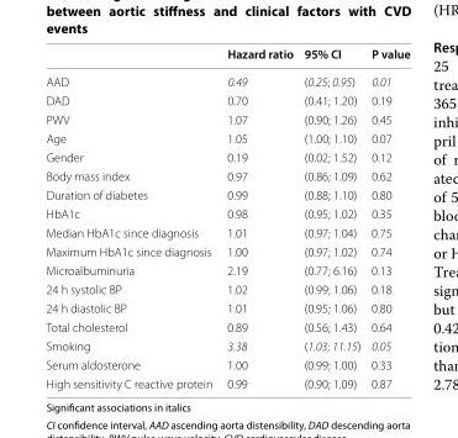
<table><thead><tr><td></td><td>Hazard ratio</td><td>95% CI</td><td>P value</td></tr></thead><tbody><tr><td>AAD</td><td>0.49</td><td>(0.25; 0.95)</td><td>0.01</td></tr><tr><td>DAD</td><td>0.70</td><td>(0.41; 1.20)</td><td>0.19</td></tr><tr><td>PWV</td><td>1.07</td><td>(0.90; 1.26)</td><td>0.45</td></tr><tr><td>Age</td><td>1.05</td><td>(1.00; 1.10)</td><td>0.07</td></tr><tr><td>Gender</td><td>0.19</td><td>(0.02; 1.52)</td><td>0.12</td></tr><tr><td>Body mass index</td><td>0.97</td><td>(0.86; 1.09)</td><td>0.62</td></tr><tr><td>Duration of diabetes</td><td>0.99</td><td>(0.88; 1.10)</td><td>0.80</td></tr><tr><td>HbA1c</td><td>0.98</td><td>(0.95; 1.02)</td><td>0.35</td></tr><tr><td>Median HbA1c since diagnosis</td><td>1.01</td><td>(0.97; 1.04)</td><td>0.75</td></tr><tr><td>Maximum HbA1c since diagnosis</td><td>1.00</td><td>(0.97; 1.02)</td><td>0.74</td></tr><tr><td>Microalbuminuria</td><td>2.19</td><td>(0.77; 6.16)</td><td>0.13</td></tr><tr><td>24 h systolic BP</td><td>1.02</td><td>(0.99; 1.06)</td><td>0.18</td></tr><tr><td>24 h diastolic BP</td><td>1.01</td><td>(0.95; 1.06)</td><td>0.80</td></tr><tr><td>Total cholesterol</td><td>0.89</td><td>(0.56; 1.43)</td><td>0.64</td></tr><tr><td>Smoking</td><td>3.38</td><td>(1.03; 11.15)</td><td>0.05</td></tr><tr><td>Serum aldosterone</td><td>1.00</td><td>(0.99; 1.00)</td><td>0.33</td></tr><tr><td>High sensitivity C reactive protein</td><td>0.99</td><td>(0.90; 1.09)</td><td>0.87</td></tr></tbody></table>